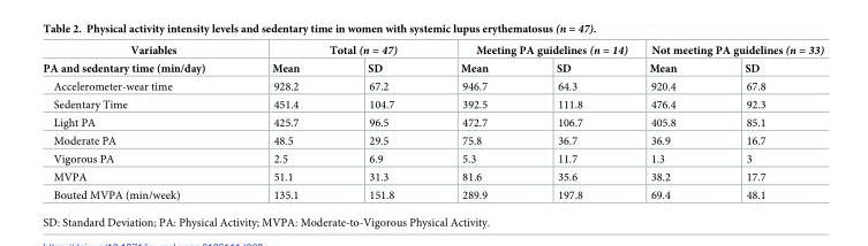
<table><thead><tr><td rowspan="2">Variables PA and sedentary time (min/day)</td><td colspan="2">Total (n = 47)</td><td colspan="2">Meeting PA guidelines (n = 14)</td><td colspan="2">Not meeting PA guidelines (n = 33)</td></tr><tr><td>Mean</td><td>SD</td><td>Mean</td><td>SD</td><td>Mean</td><td>SD</td></tr></thead><tbody><tr><td>Accelerometer-wear time</td><td>928.2</td><td>67.2</td><td>946.7</td><td>64.3</td><td>920.4</td><td>67.8</td></tr><tr><td>Sedentary Time</td><td>451.4</td><td>104.7</td><td>392.5</td><td>111.8</td><td>476.4</td><td>92.3</td></tr><tr><td>Light PA</td><td>425.7</td><td>96.5</td><td>472.7</td><td>106.7</td><td>405.8</td><td>85.1</td></tr><tr><td>Moderate PA</td><td>48.5</td><td>29.5</td><td>75.8</td><td>36.7</td><td>36.9</td><td>16.7</td></tr><tr><td>Vigorous PA</td><td>2.5</td><td>6.9</td><td>5.3</td><td>11.7</td><td>1.3</td><td>3</td></tr><tr><td>MVPA</td><td>51.1</td><td>31.3</td><td>81.6</td><td>35.6</td><td>38.2</td><td>17.7</td></tr><tr><td>Bouted MVPA (min/week)</td><td>135.1</td><td>151.8</td><td>289.9</td><td>197.8</td><td>69.4</td><td>48.1</td></tr></tbody></table>